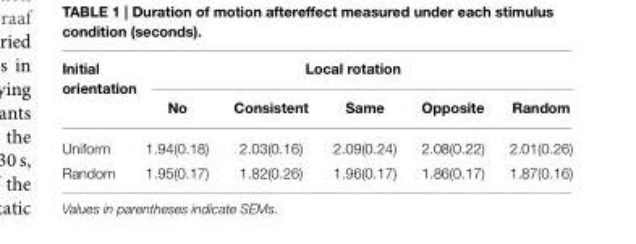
<table><thead><tr><td rowspan="2">Initial orientation</td><td colspan="5">Local rotation</td></tr><tr><td>No</td><td>Consistent</td><td>Same</td><td>Opposite</td><td>Random</td></tr></thead><tbody><tr><td>Uniform</td><td>1.94(0.18)</td><td>2.03(0.16)</td><td>2.09(0.24)</td><td>2.08(0.22)</td><td>2.01(0.26)</td></tr><tr><td>Random</td><td>1.95(0.17)</td><td>1.82(0.26)</td><td>1.96(0.17)</td><td>1.86(0.17)</td><td>1.87(0.16)</td></tr></tbody></table>